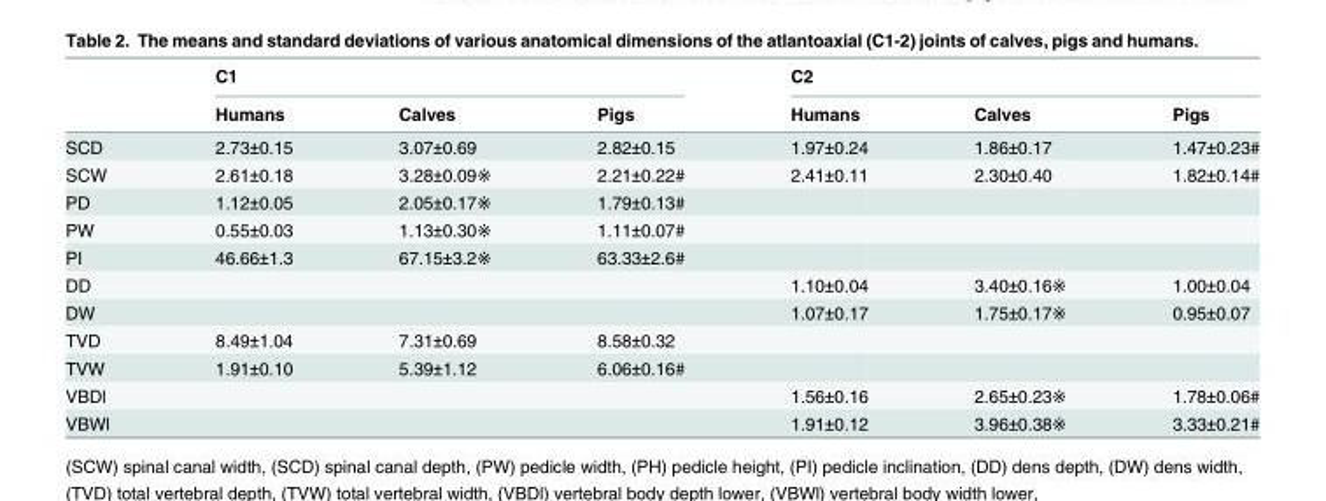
<table><thead><tr><td rowspan="2"></td><td colspan="3">C1</td><td colspan="3">C2</td></tr><tr><td>Humans</td><td>Calves</td><td>Pigs</td><td>Humans</td><td>Calves</td><td>Pigs</td></tr></thead><tbody><tr><td>SCD</td><td>2.73±0.15</td><td>3.07±0.69</td><td>2.82±0.15</td><td>1.97±0.24</td><td>1.86±0.17</td><td>1.47±0.23#</td></tr><tr><td>SCW</td><td>2.61±0.18</td><td>3.28±0.09※</td><td>2.21±0.22#</td><td>2.41±0.11</td><td>2.30±0.40</td><td>1.82±0.14#</td></tr><tr><td>PD</td><td>1.12±0.05</td><td>2.05±0.17※</td><td>1.79±0.13#</td><td></td><td></td><td></td></tr><tr><td>PW</td><td>0.55±0.03</td><td>1.13±0.30※</td><td>1.11±0.07#</td><td></td><td></td><td></td></tr><tr><td>PI</td><td>46.66±1.3</td><td>67.15±3.2※</td><td>63.33±2.6#</td><td></td><td></td><td></td></tr><tr><td>DD</td><td></td><td></td><td></td><td>1.10±0.04</td><td>3.40±0.16※</td><td>1.00±0.04</td></tr><tr><td>DW</td><td></td><td></td><td></td><td>1.07±0.17</td><td>1.75±0.17※</td><td>0.95±0.07</td></tr><tr><td>TVD</td><td>8.49±1.04</td><td>7.31±0.69</td><td>8.58±0.32</td><td></td><td></td><td></td></tr><tr><td>TVW</td><td>1.91±0.10</td><td>5.39±1.12</td><td>6.06±0.16#</td><td></td><td></td><td></td></tr><tr><td>VBDl</td><td></td><td></td><td></td><td>1.56±0.16</td><td>2.65±0.23※</td><td>1.78±0.06#</td></tr><tr><td>VBWl</td><td></td><td></td><td></td><td>1.91±0.12</td><td>3.96±0.38※</td><td>3.33±0.21#</td></tr></tbody></table>